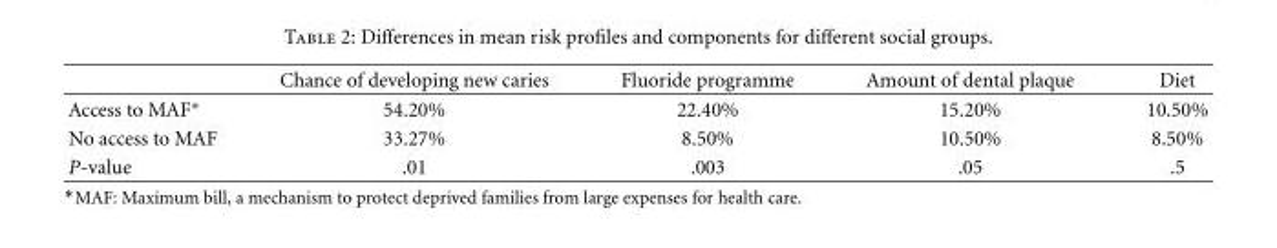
<table><thead><tr><td></td><td>Chance of developing new caries</td><td>Fluoride programme</td><td>Amount of dental plaque</td><td>Diet</td></tr></thead><tbody><tr><td>Access to MAF∗</td><td>54.20%</td><td>22.40%</td><td>15.20%</td><td>10.50%</td></tr><tr><td>No access to MAF</td><td>33.27%</td><td>8.50%</td><td>10.50%</td><td>8.50%</td></tr><tr><td>P-value</td><td>.01</td><td>.003</td><td>.05</td><td>.5</td></tr></tbody></table>